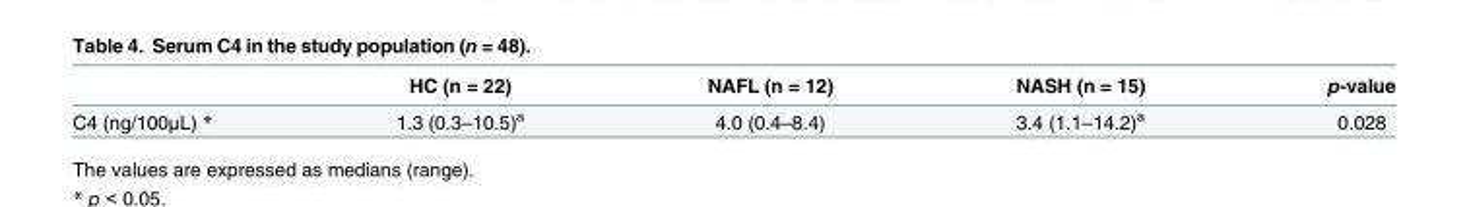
<table><thead><tr><td></td><td>HC (n = 22)</td><td>NAFL (n = 12)</td><td>NASH (n = 15)</td><td>p-value</td></tr></thead><tbody><tr><td>C4 (ng/100μL) *</td><td>1.3 (0.3–10.5)<sup>a</sup></td><td>4.0 (0.4–8.4)</td><td>3.4 (1.1–14.2)<sup>a</sup></td><td>0.028</td></tr></tbody></table>